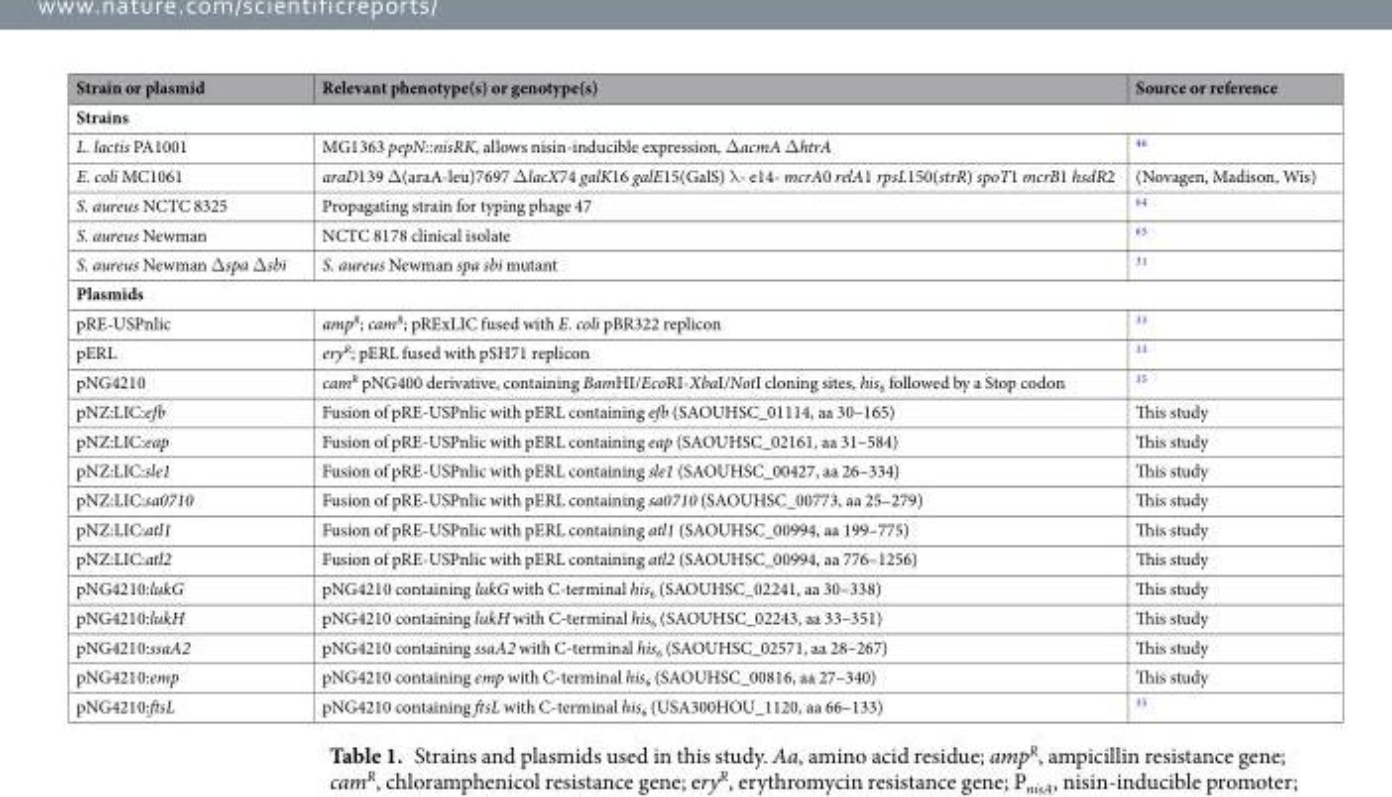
<table><thead><tr><td>Strain or plasmid</td><td>Relevant phenotype(s) or genotype(s)</td><td>Source or reference</td></tr></thead><tbody><tr><td colspan="3">Strains</td></tr><tr><td>L. lactis PA1001</td><td>MG1363 pepN::nisRK, allows nisin-inducible expression, ΔacmA ΔhtrA</td><td><sup>46</sup></td></tr><tr><td>E. coli MC1061</td><td>araD139 Δ(araA-leu)7697 ΔlacX74 galK16 galE15(GalS) λ- e14- mcrA0 relA1 rpsL150(strR) spoT1 mcrB1 hsdR2</td><td>(Novagen, Madison, Wis)</td></tr><tr><td>S. aureus NCTC 8325</td><td>Propagating strain for typing phage 47</td><td><sup>64</sup></td></tr><tr><td>S. aureus Newman</td><td>NCTC 8178 clinical isolate</td><td><sup>65</sup></td></tr><tr><td>S. aureus Newman Δspa Δsbi</td><td>S. aureus Newman spa sbi mutant</td><td><sup>31</sup></td></tr><tr><td colspan="3">Plasmids</td></tr><tr><td>pRE-USPnlic</td><td>amp<sup>R</sup>; cam<sup>R</sup>; pRExLIC fused with E. coli pBR322 replicon</td><td><sup>33</sup></td></tr><tr><td>pERL</td><td>ery<sup>R</sup>; pERL fused with pSH71 replicon</td><td><sup>33</sup></td></tr><tr><td>pNG4210</td><td>cam<sup>R</sup> pNG400 derivative, containing BamHI/EcoRI-XbaI/NotI cloning sites, his<sub>6</sub> followed by a Stop codon</td><td><sup>35</sup></td></tr><tr><td>pNZ:LIC:efb</td><td>Fusion of pRE-USPnlic with pERL containing efb (SAOUHSC_01114, aa 30–165)</td><td>This study</td></tr><tr><td>pNZ:LIC:eap</td><td>Fusion of pRE-USPnlic with pERL containing eap (SAOUHSC_02161, aa 31–584)</td><td>This study</td></tr><tr><td>pNZ:LIC:sle1</td><td>Fusion of pRE-USPnlic with pERL containing sle1 (SAOUHSC_00427, aa 26–334)</td><td>This study</td></tr><tr><td>pNZ:LIC:sa0710</td><td>Fusion of pRE-USPnlic with pERL containing sa0710 (SAOUHSC_00773, aa 25–279)</td><td>This study</td></tr><tr><td>pNZ:LIC:atl1</td><td>Fusion of pRE-USPnlic with pERL containing atl1 (SAOUHSC_00994, aa 199–775)</td><td>This study</td></tr><tr><td>pNZ:LIC:atl2</td><td>Fusion of pRE-USPnlic with pERL containing atl2 (SAOUHSC_00994, aa 776–1256)</td><td>This study</td></tr><tr><td>pNG4210:lukG</td><td>pNG4210 containing lukG with C-terminal his<sub>6</sub> (SAOUHSC_02241, aa 30–338)</td><td>This study</td></tr><tr><td>pNG4210:lukH</td><td>pNG4210 containing lukH with C-terminal his<sub>6</sub> (SAOUHSC_02243, aa 33–351)</td><td>This study</td></tr><tr><td>pNG4210:ssaA2</td><td>pNG4210 containing ssaA2 with C-terminal his<sub>6</sub> (SAOUHSC_02571, aa 28–267)</td><td>This study</td></tr><tr><td>pNG4210:emp</td><td>pNG4210 containing emp with C-terminal his<sub>6</sub> (SAOUHSC_00816, aa 27–340)</td><td>This study</td></tr><tr><td>pNG4210:ftsL</td><td>pNG4210 containing ftsL with C-terminal his<sub>6</sub> (USA300HOU_1120, aa 66–133)</td><td><sup>35</sup></td></tr></tbody></table>